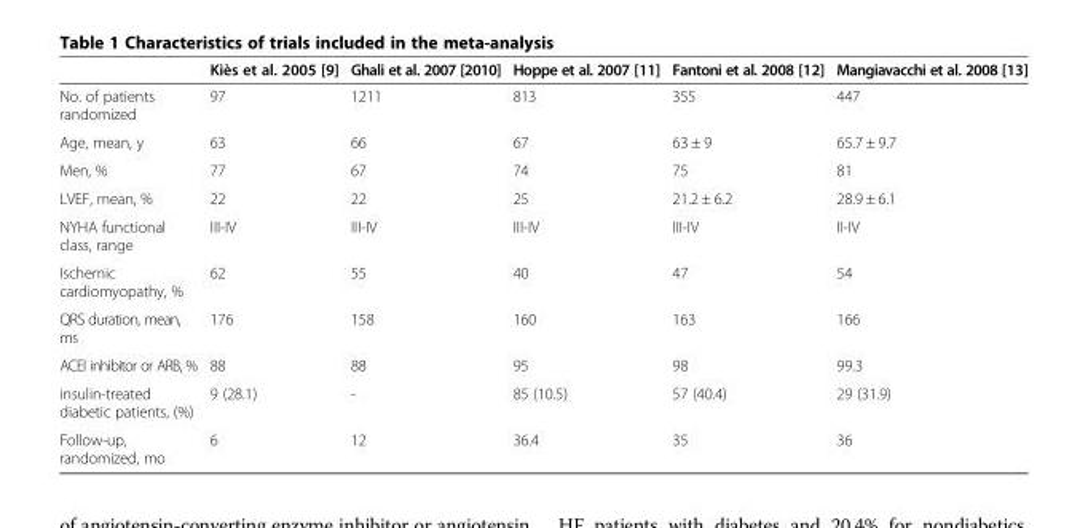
<table><thead><tr><td></td><td>Kiès et al. 2005 [9]</td><td>Ghali et al. 2007 [2010]</td><td>Hoppe et al. 2007 [11]</td><td>Fantoni et al. 2008 [12]</td><td>Mangiavacchi et al. 2008 [13]</td></tr></thead><tbody><tr><td>No. of patients randomized</td><td>97</td><td>1211</td><td>813</td><td>355</td><td>447</td></tr><tr><td>Age, mean, y</td><td>63</td><td>66</td><td>67</td><td>63 ± 9</td><td>65.7 ± 9.7</td></tr><tr><td>Men, %</td><td>77</td><td>67</td><td>74</td><td>75</td><td>81</td></tr><tr><td>LVEF, mean, %</td><td>22</td><td>22</td><td>25</td><td>21.2 ± 6.2</td><td>28.9 ± 6.1</td></tr><tr><td>NYHA functional class, range</td><td>III-IV</td><td>III-IV</td><td>III-IV</td><td>III-IV</td><td>II-IV</td></tr><tr><td>Ischemic cardiomyopathy, %</td><td>62</td><td>55</td><td>40</td><td>47</td><td>54</td></tr><tr><td>QRS duration, mean, ms</td><td>176</td><td>158</td><td>160</td><td>163</td><td>166</td></tr><tr><td>ACEI inhibitor or ARB, %</td><td>88</td><td>88</td><td>95</td><td>98</td><td>99.3</td></tr><tr><td>insulin-treated diabetic patients, (%)</td><td>9 (28.1)</td><td>-</td><td>85 (10.5)</td><td>57 (40.4)</td><td>29 (31.9)</td></tr><tr><td>Follow-up, randomized, mo</td><td>6</td><td>12</td><td>36.4</td><td>35</td><td>36</td></tr></tbody></table>